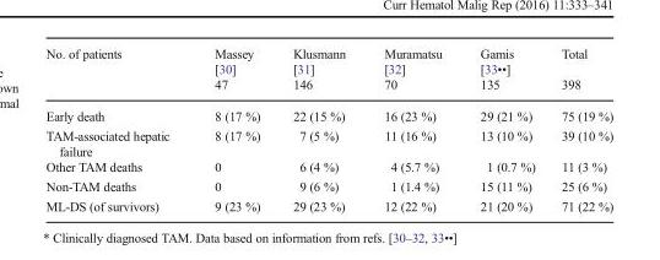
<table><thead><tr><td rowspan="2">No. of patients</td><td rowspan="2">Massey [30] 47</td><td rowspan="2">Klusmann [31] 146</td><td rowspan="2">Muramatsu [32] 70</td><td rowspan="2">Gamis [33••] 135</td><td rowspan="2">Total 398</td></tr><tr></tr></thead><tbody><tr><td>Early death</td><td>8 (17 %)</td><td>22 (15 %)</td><td>16 (23 %)</td><td>29 (21 %)</td><td>75 (19 %)</td></tr><tr><td>TAM-associated hepatic failure</td><td>8 (17 %)</td><td>7 (5 %)</td><td>11 (16 %)</td><td>13 (10 %)</td><td>39 (10 %)</td></tr><tr><td>Other TAM deaths</td><td>0</td><td>6 (4 %)</td><td>4 (5.7 %)</td><td>1 (0.7 %)</td><td>11 (3 %)</td></tr><tr><td>Non-TAM deaths</td><td>0</td><td>9 (6 %)</td><td>1 (1.4 %)</td><td>15 (11 %)</td><td>25 (6 %)</td></tr><tr><td>ML-DS (of survivors)</td><td>9 (23 %)</td><td>29 (23 %)</td><td>12 (22 %)</td><td>21 (20 %)</td><td>71 (22 %)</td></tr></tbody></table>